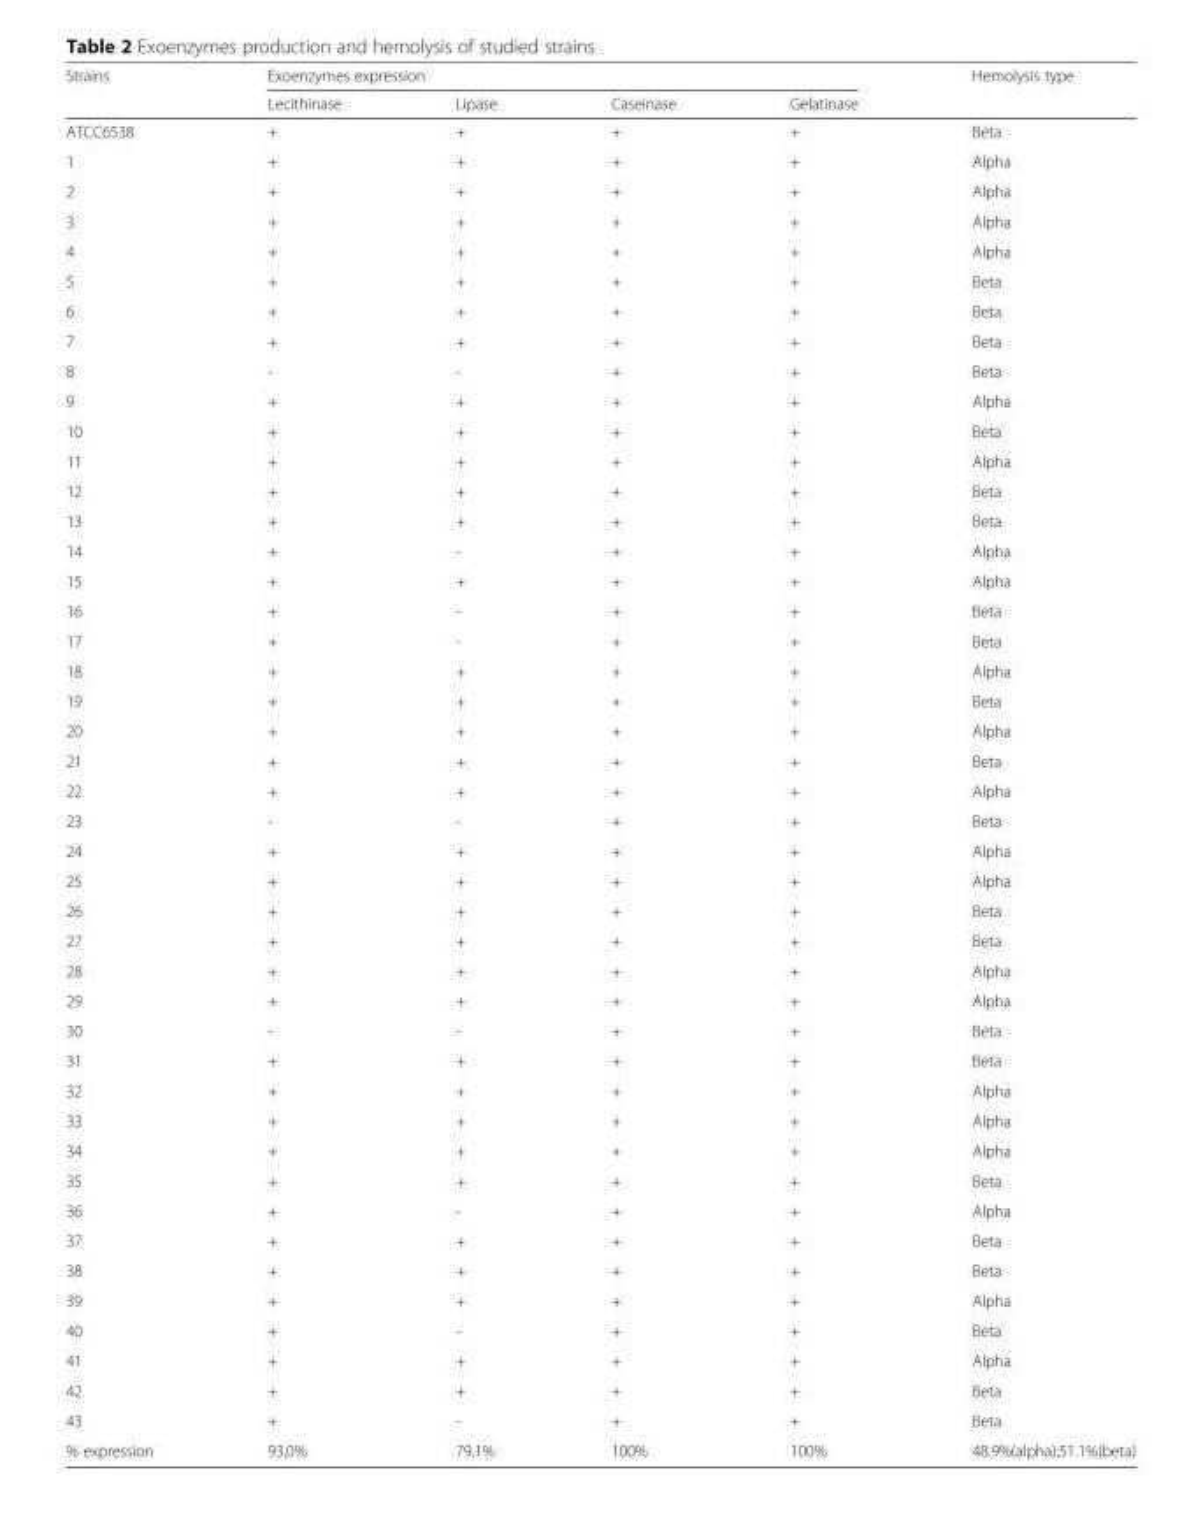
<table><thead><tr><td rowspan="2">Strains</td><td colspan="4">Exoenzymes expression</td><td rowspan="2">Hemolysis type</td></tr><tr><td>Lecithinase</td><td>Lipase</td><td>Caseinase</td><td>Gelatinase</td></tr></thead><tbody><tr><td>ATCC6538</td><td>+</td><td>+</td><td>+</td><td>+</td><td>Beta</td></tr><tr><td>1</td><td>+</td><td>+</td><td>+</td><td>+</td><td>Alpha</td></tr><tr><td>2</td><td>+</td><td>+</td><td>+</td><td>+</td><td>Alpha</td></tr><tr><td>3</td><td>+</td><td>+</td><td>+</td><td>+</td><td>Alpha</td></tr><tr><td>4</td><td>+</td><td>+</td><td>+</td><td>+</td><td>Alpha</td></tr><tr><td>5</td><td>+</td><td>+</td><td>+</td><td>+</td><td>Beta</td></tr><tr><td>6</td><td>+</td><td>+</td><td>+</td><td>+</td><td>Beta</td></tr><tr><td>7</td><td>+</td><td>+</td><td>+</td><td>+</td><td>Beta</td></tr><tr><td>8</td><td>-</td><td>-</td><td>+</td><td>+</td><td>Beta</td></tr><tr><td>9</td><td>+</td><td>+</td><td>+</td><td>+</td><td>Alpha</td></tr><tr><td>10</td><td>+</td><td>+</td><td>+</td><td>+</td><td>Beta</td></tr><tr><td>11</td><td>+</td><td>+</td><td>+</td><td>+</td><td>Alpha</td></tr><tr><td>12</td><td>+</td><td>+</td><td>+</td><td>+</td><td>Beta</td></tr><tr><td>13</td><td>+</td><td>+</td><td>+</td><td>+</td><td>Beta</td></tr><tr><td>14</td><td>+</td><td>-</td><td>+</td><td>+</td><td>Alpha</td></tr><tr><td>15</td><td>+</td><td>+</td><td>+</td><td>+</td><td>Alpha</td></tr><tr><td>16</td><td>+</td><td>-</td><td>+</td><td>+</td><td>Beta</td></tr><tr><td>17</td><td>+</td><td>-</td><td>+</td><td>+</td><td>Beta</td></tr><tr><td>18</td><td>+</td><td>+</td><td>+</td><td>+</td><td>Alpha</td></tr><tr><td>19</td><td>+</td><td>+</td><td>+</td><td>+</td><td>Beta</td></tr><tr><td>20</td><td>+</td><td>+</td><td>+</td><td>+</td><td>Alpha</td></tr><tr><td>21</td><td>+</td><td>+</td><td>+</td><td>+</td><td>Beta</td></tr><tr><td>22</td><td>+</td><td>+</td><td>+</td><td>+</td><td>Alpha</td></tr><tr><td>23</td><td>-</td><td>-</td><td>+</td><td>+</td><td>Beta</td></tr><tr><td>24</td><td>+</td><td>+</td><td>+</td><td>+</td><td>Alpha</td></tr><tr><td>25</td><td>+</td><td>+</td><td>+</td><td>+</td><td>Alpha</td></tr><tr><td>26</td><td>+</td><td>+</td><td>+</td><td>+</td><td>Beta</td></tr><tr><td>27</td><td>+</td><td>+</td><td>+</td><td>+</td><td>Beta</td></tr><tr><td>28</td><td>+</td><td>+</td><td>+</td><td>+</td><td>Alpha</td></tr><tr><td>29</td><td>+</td><td>+</td><td>+</td><td>+</td><td>Alpha</td></tr><tr><td>30</td><td>-</td><td>-</td><td>+</td><td>+</td><td>Beta</td></tr><tr><td>31</td><td>+</td><td>+</td><td>+</td><td>+</td><td>Beta</td></tr><tr><td>32</td><td>+</td><td>+</td><td>+</td><td>+</td><td>Alpha</td></tr><tr><td>33</td><td>+</td><td>+</td><td>+</td><td>+</td><td>Alpha</td></tr><tr><td>34</td><td>+</td><td>+</td><td>+</td><td>+</td><td>Alpha</td></tr><tr><td>35</td><td>+</td><td>+</td><td>+</td><td>+</td><td>Beta</td></tr><tr><td>36</td><td>+</td><td>-</td><td>+</td><td>+</td><td>Alpha</td></tr><tr><td>37</td><td>+</td><td>+</td><td>+</td><td>+</td><td>Beta</td></tr><tr><td>38</td><td>+</td><td>+</td><td>+</td><td>+</td><td>Beta</td></tr><tr><td>39</td><td>+</td><td>+</td><td>+</td><td>+</td><td>Alpha</td></tr><tr><td>40</td><td>+</td><td>-</td><td>+</td><td>+</td><td>Beta</td></tr><tr><td>41</td><td>+</td><td>+</td><td>+</td><td>+</td><td>Alpha</td></tr><tr><td>42</td><td>+</td><td>+</td><td>+</td><td>+</td><td>Beta</td></tr><tr><td>43</td><td>+</td><td>-</td><td>+</td><td>+</td><td>Beta</td></tr><tr><td>% expression</td><td>93,0%</td><td>79,1%</td><td>100%</td><td>100%</td><td>48.9%(alpha);51.1%(beta)</td></tr></tbody></table>